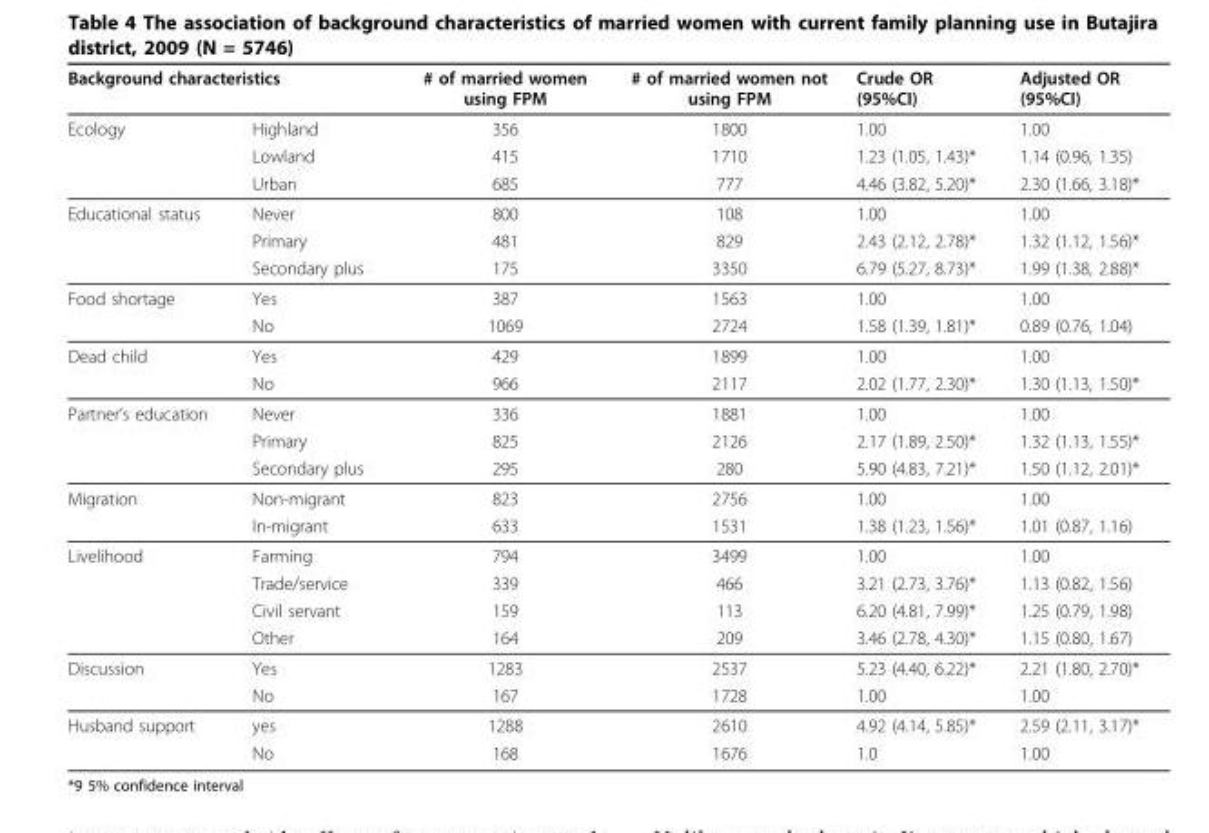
<table><thead><tr><td colspan="2">Background characteristics</td><td rowspan="2"># of married women using FPM 356</td><td rowspan="2"># of married women not using FPM 1800</td><td rowspan="2">Crude OR (95%CI) 1.00</td><td rowspan="2">Adjusted OR (95%CI) 1.00</td></tr><tr><td>Ecology</td><td>Highland</td></tr></thead><tbody><tr><td></td><td>Lowland</td><td>415</td><td>1710</td><td>1.23 (1.05, 1.43)*</td><td>1.14 (0.96, 1.35)</td></tr><tr><td></td><td>Urban</td><td>685</td><td>777</td><td>4.46 (3.82, 5.20)*</td><td>2.30 (1.66, 3.18)*</td></tr><tr><td rowspan="3">Educational status</td><td>Never</td><td>800</td><td>108</td><td>1.00</td><td>1.00</td></tr><tr><td>Primary</td><td>481</td><td>829</td><td>2.43 (2.12, 2.78)*</td><td>1.32 (1.12, 1.56)*</td></tr><tr><td>Secondary plus</td><td>175</td><td>3350</td><td>6.79 (5.27, 8.73)*</td><td>1.99 (1.38, 2.88)*</td></tr><tr><td rowspan="2">Food shortage</td><td>Yes</td><td>387</td><td>1563</td><td>1.00</td><td>1.00</td></tr><tr><td>No</td><td>1069</td><td>2724</td><td>1.58 (1.39, 1.81)*</td><td>0.89 (0.76, 1.04)</td></tr><tr><td rowspan="2">Dead child</td><td>Yes</td><td>429</td><td>1899</td><td>1.00</td><td>1.00</td></tr><tr><td>No</td><td>966</td><td>2117</td><td>2.02 (1.77, 2.30)*</td><td>1.30 (1.13, 1.50)*</td></tr><tr><td rowspan="3">Partner’s education</td><td>Never</td><td>336</td><td>1881</td><td>1.00</td><td>1.00</td></tr><tr><td>Primary</td><td>825</td><td>2126</td><td>2.17 (1.89, 2.50)*</td><td>1.32 (1.13, 1.55)*</td></tr><tr><td>Secondary plus</td><td>295</td><td>280</td><td>5.90 (4.83, 7.21)*</td><td>1.50 (1.12, 2.01)*</td></tr><tr><td rowspan="2">Migration</td><td>Non-migrant</td><td>823</td><td>2756</td><td>1.00</td><td>1.00</td></tr><tr><td>In-migrant</td><td>633</td><td>1531</td><td>1.38 (1.23, 1.56)*</td><td>1.01 (0.87, 1.16)</td></tr><tr><td rowspan="4">Livelihood</td><td>Farming</td><td>794</td><td>3499</td><td>1.00</td><td>1.00</td></tr><tr><td>Trade/service</td><td>339</td><td>466</td><td>3.21 (2.73, 3.76)*</td><td>1.13 (0.82, 1.56)</td></tr><tr><td>Civil servant</td><td>159</td><td>113</td><td>6.20 (4.81, 7.99)*</td><td>1.25 (0.79, 1.98)</td></tr><tr><td>Other</td><td>164</td><td>209</td><td>3.46 (2.78, 4.30)*</td><td>1.15 (0.80, 1.67)</td></tr><tr><td rowspan="2">Discussion</td><td>Yes</td><td>1283</td><td>2537</td><td>5.23 (4.40, 6.22)*</td><td>2.21 (1.80, 2.70)*</td></tr><tr><td>No</td><td>167</td><td>1728</td><td>1.00</td><td>1.00</td></tr><tr><td rowspan="2">Husband support</td><td>yes</td><td>1288</td><td>2610</td><td>4.92 (4.14, 5.85)*</td><td>2.59 (2.11, 3.17)*</td></tr><tr><td>No</td><td>168</td><td>1676</td><td>1.0</td><td>1.00</td></tr></tbody></table>